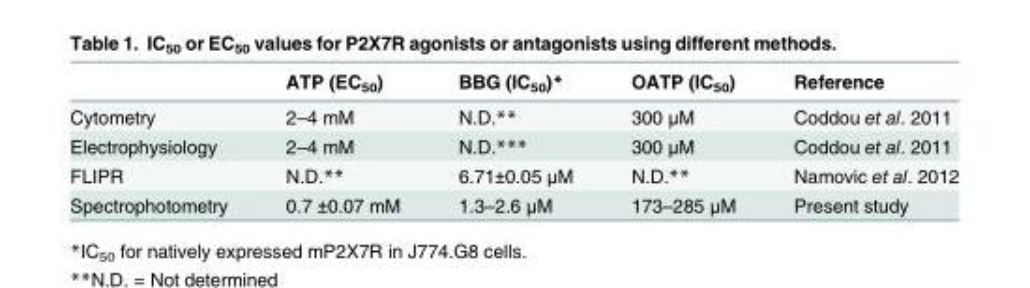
<table><thead><tr><td></td><td>ATP (EC<sub>50</sub>)</td><td>BBG (IC<sub>50</sub>)*</td><td>OATP (IC<sub>50</sub>)</td><td>Reference</td></tr></thead><tbody><tr><td>Cytometry</td><td>2–4 mM</td><td>N.D.**</td><td>300 μM</td><td>Coddou et al. 2011</td></tr><tr><td>Electrophysiology</td><td>2–4 mM</td><td>N.D.***</td><td>300 μM</td><td>Coddou et al. 2011</td></tr><tr><td>FLIPR</td><td>N.D.**</td><td>6.71±0.05 μM</td><td>N.D.**</td><td>Namovic et al. 2012</td></tr><tr><td>Spectrophotometry</td><td>0.7 ±0.07 mM</td><td>1.3–2.6 μM</td><td>173–285 μM</td><td>Present study</td></tr></tbody></table>